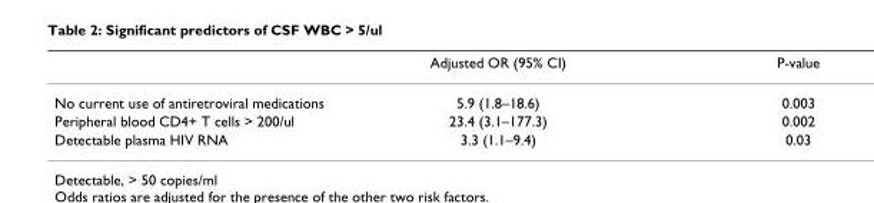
<table><thead><tr><td></td><td>Adjusted OR (95% CI)</td><td>P-value</td></tr></thead><tbody><tr><td>No current use of antiretroviral medications</td><td>5.9 (1.8–18.6)</td><td>0.003</td></tr><tr><td>Peripheral blood CD4+ T cells &gt; 200/ul</td><td>23.4 (3.1–177.3)</td><td>0.002</td></tr><tr><td>Detectable plasma HIV RNA</td><td>3.3 (1.1–9.4)</td><td>0.03</td></tr></tbody></table>